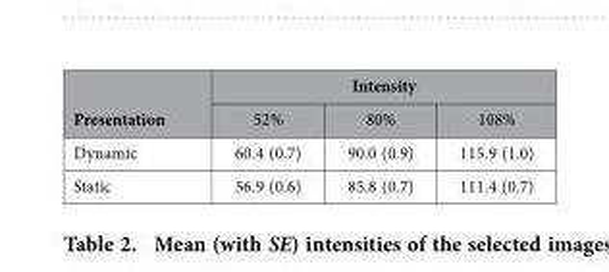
<table><thead><tr><td rowspan="2">Presentation</td><td colspan="3">Intensity</td></tr><tr><td>52%</td><td>80%</td><td>108%</td></tr></thead><tbody><tr><td>Dynamic</td><td>60.4 (0.7)</td><td>90.0 (0.9)</td><td>115.9 (1.0)</td></tr><tr><td>Static</td><td>56.9 (0.6)</td><td>85.8 (0.7)</td><td>111.4 (0.7)</td></tr></tbody></table>